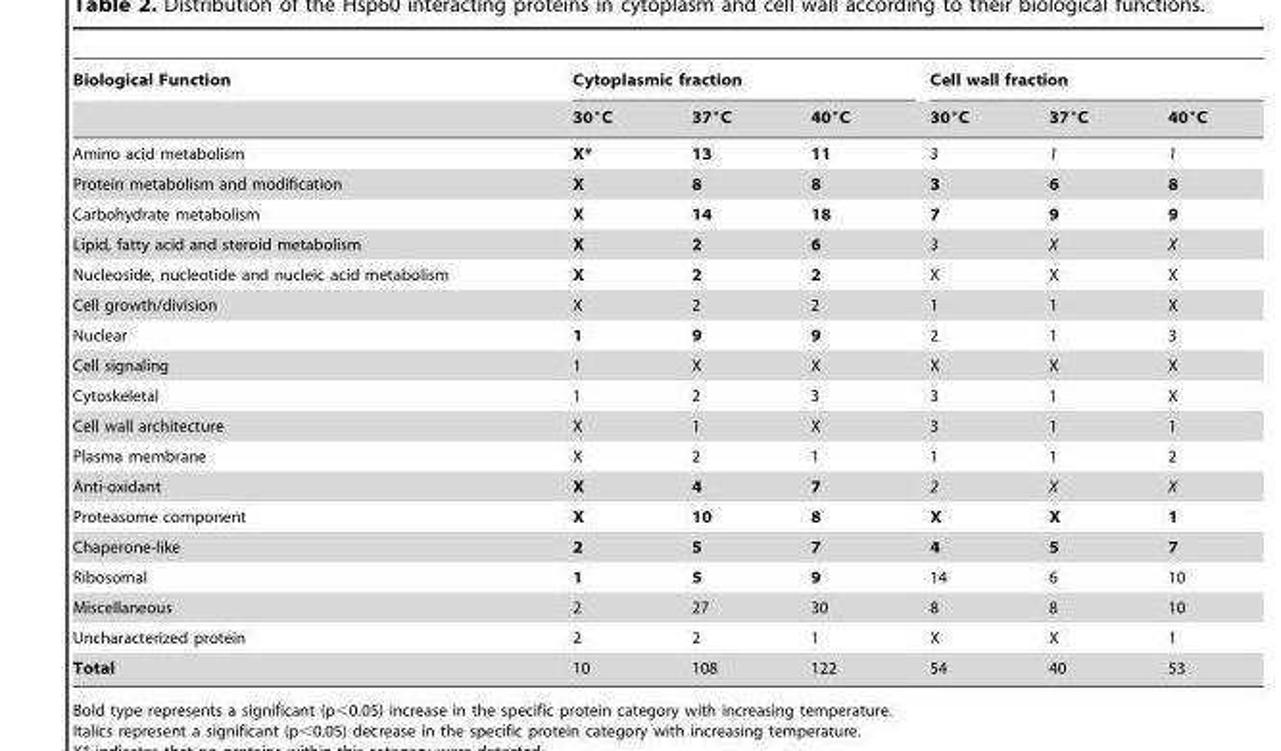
<table><thead><tr><td rowspan="2">Biological Function</td><td colspan="3">Cytoplasmic fraction</td><td colspan="3">Cell wall fraction</td></tr><tr><td>30°C</td><td>37°C</td><td>40°C</td><td>30°C</td><td>37°C</td><td>40°C</td></tr></thead><tbody><tr><td>Amino acid metabolism</td><td>X*</td><td>13</td><td>11</td><td>3</td><td>1</td><td>1</td></tr><tr><td>Protein metabolism and modification</td><td>X</td><td>8</td><td>8</td><td>3</td><td>6</td><td>8</td></tr><tr><td>Carbohydrate metabolism</td><td>X</td><td>14</td><td>18</td><td>7</td><td>9</td><td>9</td></tr><tr><td>Lipid, fatty acid and steroid metabolism</td><td>X</td><td>2</td><td>6</td><td>3</td><td>X</td><td>X</td></tr><tr><td>Nucleoside, nucleotide and nucleic acid metabolism</td><td>X</td><td>2</td><td>2</td><td>X</td><td>X</td><td>X</td></tr><tr><td>Cell growth/division</td><td>X</td><td>2</td><td>2</td><td>1</td><td>1</td><td>X</td></tr><tr><td>Nuclear</td><td>1</td><td>9</td><td>9</td><td>2</td><td>1</td><td>3</td></tr><tr><td>Cell signaling</td><td>1</td><td>X</td><td>X</td><td>X</td><td>X</td><td>X</td></tr><tr><td>Cytoskeletal</td><td>1</td><td>2</td><td>3</td><td>3</td><td>1</td><td>X</td></tr><tr><td>Cell wall architecture</td><td>X</td><td>1</td><td>X</td><td>3</td><td>1</td><td>1</td></tr><tr><td>Plasma membrane</td><td>X</td><td>2</td><td>1</td><td>1</td><td>1</td><td>2</td></tr><tr><td>Anti-oxidant</td><td>X</td><td>4</td><td>7</td><td>2</td><td>X</td><td>X</td></tr><tr><td>Proteasome component</td><td>X</td><td>10</td><td>8</td><td>X</td><td>X</td><td>1</td></tr><tr><td>Chaperone-like</td><td>2</td><td>5</td><td>7</td><td>4</td><td>5</td><td>7</td></tr><tr><td>Ribosomal</td><td>1</td><td>5</td><td>9</td><td>14</td><td>6</td><td>10</td></tr><tr><td>Miscellaneous</td><td>2</td><td>27</td><td>30</td><td>8</td><td>8</td><td>10</td></tr><tr><td>Uncharacterized protein</td><td>2</td><td>2</td><td>1</td><td>X</td><td>X</td><td>1</td></tr><tr><td>Total</td><td>10</td><td>108</td><td>122</td><td>54</td><td>40</td><td>53</td></tr></tbody></table>